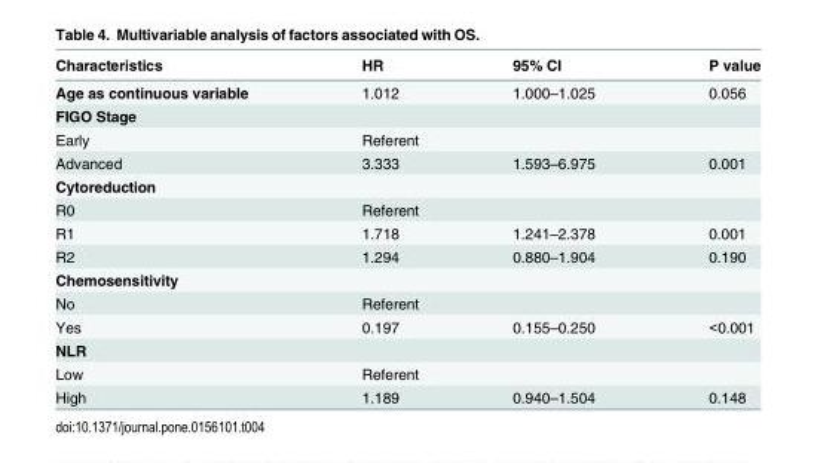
<table><thead><tr><td>Characteristics</td><td>HR</td><td>95% CI</td><td>P value</td></tr></thead><tbody><tr><td>Age as continuous variable</td><td>1.012</td><td>1.000–1.025</td><td>0.056</td></tr><tr><td colspan="4">FIGO Stage</td></tr><tr><td>Early</td><td colspan="3">Referent</td></tr><tr><td>Advanced</td><td>3.333</td><td>1.593–6.975</td><td>0.001</td></tr><tr><td colspan="4">Cytoreduction</td></tr><tr><td>R0</td><td colspan="3">Referent</td></tr><tr><td>R1</td><td>1.718</td><td>1.241–2.378</td><td>0.001</td></tr><tr><td>R2</td><td>1.294</td><td>0.880–1.904</td><td>0.190</td></tr><tr><td colspan="4">Chemosensitivity</td></tr><tr><td>No</td><td colspan="3">Referent</td></tr><tr><td>Yes</td><td>0.197</td><td>0.155–0.250</td><td>&lt;0.001</td></tr><tr><td colspan="4">NLR</td></tr><tr><td>Low</td><td colspan="3">Referent</td></tr><tr><td>High</td><td>1.189</td><td>0.940–1.504</td><td>0.148</td></tr></tbody></table>